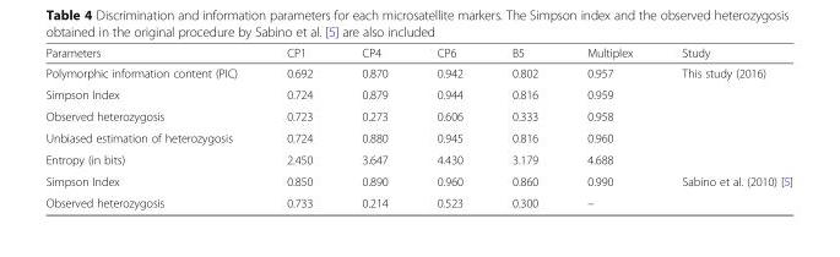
<table><thead><tr><td>Parameters</td><td>CP1</td><td>CP4</td><td>CP6</td><td>B5</td><td>Multiplex</td><td>Study</td></tr></thead><tbody><tr><td>Polymorphic information content (PIC)</td><td>0.692</td><td>0.870</td><td>0.942</td><td>0.802</td><td>0.957</td><td rowspan="5">This study (2016)</td></tr><tr><td>Simpson Index</td><td>0.724</td><td>0.879</td><td>0.944</td><td>0.816</td><td>0.959</td></tr><tr><td>Observed heterozygosis</td><td>0.723</td><td>0.273</td><td>0.606</td><td>0.333</td><td>0.958</td></tr><tr><td>Unbiased estimation of heterozygosis</td><td>0.724</td><td>0.880</td><td>0.945</td><td>0.816</td><td>0.960</td></tr><tr><td>Entropy (in bits)</td><td>2.450</td><td>3.647</td><td>4.430</td><td>3.179</td><td>4.688</td></tr><tr><td>Simpson Index</td><td>0.850</td><td>0.890</td><td>0.960</td><td>0.860</td><td>0.990</td><td rowspan="2">Sabino et al. (2010) [5]</td></tr><tr><td>Observed heterozygosis</td><td>0.733</td><td>0.214</td><td>0.523</td><td>0.300</td><td>–</td></tr></tbody></table>